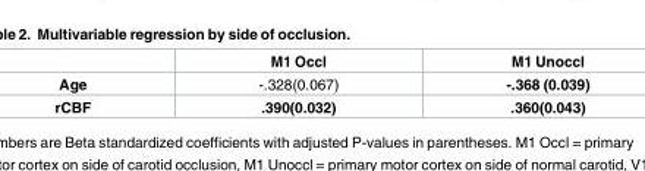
<table><thead><tr><td></td><td>M1 Occl</td><td>M1 Unoccl</td></tr></thead><tbody><tr><td>Age</td><td>-.328(0.067)</td><td>-.368 (0.039)</td></tr><tr><td>rCBF</td><td>.390(0.032)</td><td>.360(0.043)</td></tr></tbody></table>